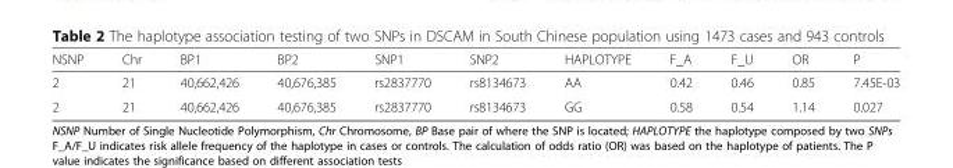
<table><thead><tr><td>NSNP</td><td>Chr</td><td>BP1</td><td>BP2</td><td>SNP1</td><td>SNP2</td><td>HAPLOTYPE</td><td>F_A</td><td>F_U</td><td>OR</td><td>P</td></tr></thead><tbody><tr><td>2</td><td>21</td><td>40,662,426</td><td>40,676,385</td><td>rs2837770</td><td>rs8134673</td><td>AA</td><td>0.42</td><td>0.46</td><td>0.85</td><td>7.45E-03</td></tr><tr><td>2</td><td>21</td><td>40,662,426</td><td>40,676,385</td><td>rs2837770</td><td>rs8134673</td><td>GG</td><td>0.58</td><td>0.54</td><td>1.14</td><td>0.027</td></tr></tbody></table>